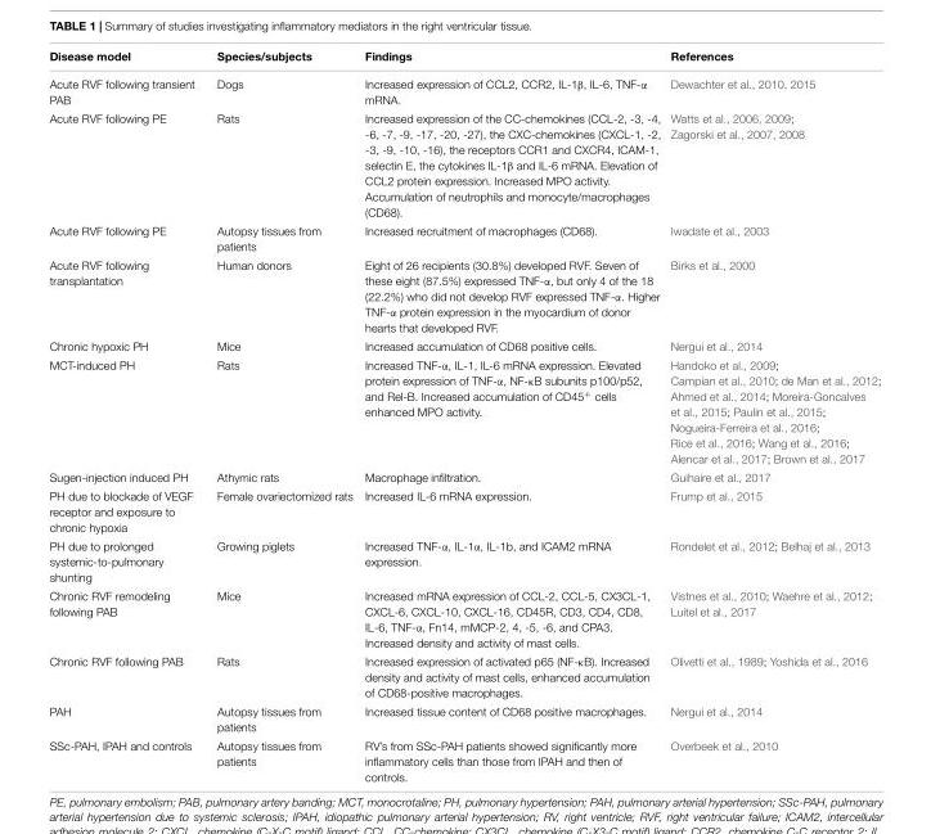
<table><thead><tr><td>Disease model</td><td>Species/subjects</td><td>Findings</td><td>References</td></tr></thead><tbody><tr><td>Acute RVF following transient PAB</td><td>Dogs</td><td>Increased expression of CCL2, CCR2, IL-1β, IL-6, TNF-α mRNA.</td><td>Dewachter et al., 2010, 2015</td></tr><tr><td>Acute RVF following PE</td><td>Rats</td><td>Increased expression of the CC-chemokines (CCL-2, -3, -4, -6, -7, -9, -17, -20, -27), the CXC-chemokines (CXCL-1, -2, -3, -9, -10, -16), the receptors CCR1 and CXCR4, ICAM-1, selectin E, the cytokines IL-1β and IL-6 mRNA. Elevation of CCL2 protein expression. Increased MPO activity. Accumulation of neutrophils and monocyte/macrophages (CD68).</td><td>Watts et al., 2006, 2009; Zagorski et al., 2007, 2008</td></tr><tr><td>Acute RVF following PE</td><td>Autopsy tissues from patients</td><td>Increased recruitment of macrophages (CD68).</td><td>Iwadate et al., 2003</td></tr><tr><td>Acute RVF following transplantation</td><td>Human donors</td><td>Eight of 26 recipients (30.8%) developed RVF. Seven of these eight (87.5%) expressed TNF-α, but only 4 of the 18 (22.2%) who did not develop RVF expressed TNF-α. Higher TNF-α protein expression in the myocardium of donor hearts that developed RVF.</td><td>Birks et al., 2000</td></tr><tr><td>Chronic hypoxic PH</td><td>Mice</td><td>Increased accumulation of CD68 positive cells.</td><td>Nergui et al., 2014</td></tr><tr><td>MCT-induced PH</td><td>Rats</td><td>Increased TNF-α, IL-1, IL-6 mRNA expression. Elevated protein expression of TNF-α, NF-κB subunits p100/p52, and Rel-B. Increased accumulation of CD45<sup>+</sup> cells enhanced MPO activity.</td><td>Handoko et al., 2009; Campian et al., 2010; de Man et al., 2012; Ahmed et al., 2014; Moreira-Goncalves et al., 2015; Paulin et al., 2015; Nogueira-Ferreira et al., 2016; Rice et al., 2016; Wang et al., 2016; Alencar et al., 2017; Brown et al., 2017</td></tr><tr><td>Sugen-injection induced PH</td><td>Athymic rats</td><td>Macrophage infiltration.</td><td>Guihaire et al., 2017</td></tr><tr><td>PH due to blockade of VEGF receptor and exposure to chronic hypoxia</td><td>Female ovariectomized rats</td><td>Increased IL-6 mRNA expression.</td><td>Frump et al., 2015</td></tr><tr><td>PH due to prolonged systemic-to-pulmonary shunting</td><td>Growing piglets</td><td>Increased TNF-α, IL-1α, IL-1b, and ICAM2 mRNA expression.</td><td>Rondelet et al., 2012; Belhaj et al., 2013</td></tr><tr><td>Chronic RVF remodeling following PAB</td><td>Mice</td><td>Increased mRNA expression of CCL-2, CCL-5, CX3CL-1, CXCL-6, CXCL-10, CXCL-16, CD45R, CD3, CD4, CD8, IL-6, TNF-α, Fn14, mMCP-2, 4, -5, -6, and CPA3. Increased density and activity of mast cells.</td><td>Vistnes et al., 2010; Waehre et al., 2012; Luitel et al., 2017</td></tr><tr><td>Chronic RVF following PAB</td><td>Rats</td><td>Increased expression of activated p65 (NF-κB). Increased density and activity of mast cells, enhanced accumulation of CD68-positive macrophages.</td><td>Olivetti et al., 1989; Yoshida et al., 2016</td></tr><tr><td>PAH</td><td>Autopsy tissues from patients</td><td>Increased tissue content of CD68 positive macrophages.</td><td>Nergui et al., 2014</td></tr><tr><td>SSc-PAH, IPAH and controls</td><td>Autopsy tissues from patients</td><td>RV’s from SSc-PAH patients showed significantly more inflammatory cells than those from IPAH and then of controls.</td><td>Overbeek et al., 2010</td></tr></tbody></table>